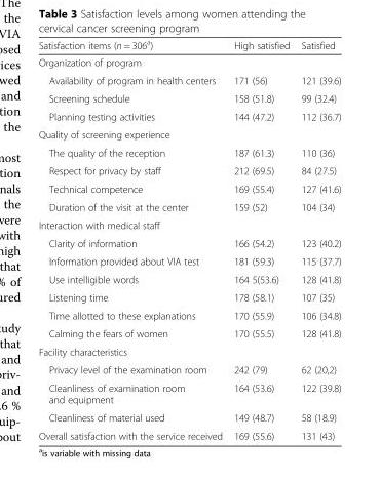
<table><thead><tr><td>Satisfaction items (n = 306<sup>a</sup>)</td><td>High satisfied</td><td>Satisfied</td></tr></thead><tbody><tr><td colspan="3">Organization of program</td></tr><tr><td>Availability of program in health centers</td><td>171 (56)</td><td>121 (39.6)</td></tr><tr><td>Screening schedule</td><td>158 (51.8)</td><td>99 (32.4)</td></tr><tr><td>Planning testing activities</td><td>144 (47.2)</td><td>112 (36.7)</td></tr><tr><td colspan="3">Quality of screening experience</td></tr><tr><td>The quality of the reception</td><td>187 (61.3)</td><td>110 (36)</td></tr><tr><td>Respect for privacy by staff</td><td>212 (69.5)</td><td>84 (27.5)</td></tr><tr><td>Technical competence</td><td>169 (55.4)</td><td>127 (41.6)</td></tr><tr><td>Duration of the visit at the center</td><td>159 (52)</td><td>104 (34)</td></tr><tr><td colspan="3">Interaction with medical staff</td></tr><tr><td>Clarity of information</td><td>166 (54.2)</td><td>123 (40.2)</td></tr><tr><td>Information provided about VIA test</td><td>181 (59.3)</td><td>115 (37.7)</td></tr><tr><td>Use intelligible words</td><td>164 5(53.6)</td><td>128 (41.8)</td></tr><tr><td>Listening time</td><td>178 (58.1)</td><td>107 (35)</td></tr><tr><td>Time allotted to these explanations</td><td>170 (55.9)</td><td>106 (34.8)</td></tr><tr><td>Calming the fears of women</td><td>170 (55.5)</td><td>128 (41.8)</td></tr><tr><td colspan="3">Facility characteristics</td></tr><tr><td>Privacy level of the examination room</td><td>242 (79)</td><td>62 (20,2)</td></tr><tr><td>Cleanliness of examination room and equipment</td><td>164 (53.6)</td><td>122 (39.8)</td></tr><tr><td>Cleanliness of material used</td><td>149 (48.7)</td><td>58 (18.9)</td></tr><tr><td>Overall satisfaction with the service received</td><td>169 (55.6)</td><td>131 (43)</td></tr></tbody></table>